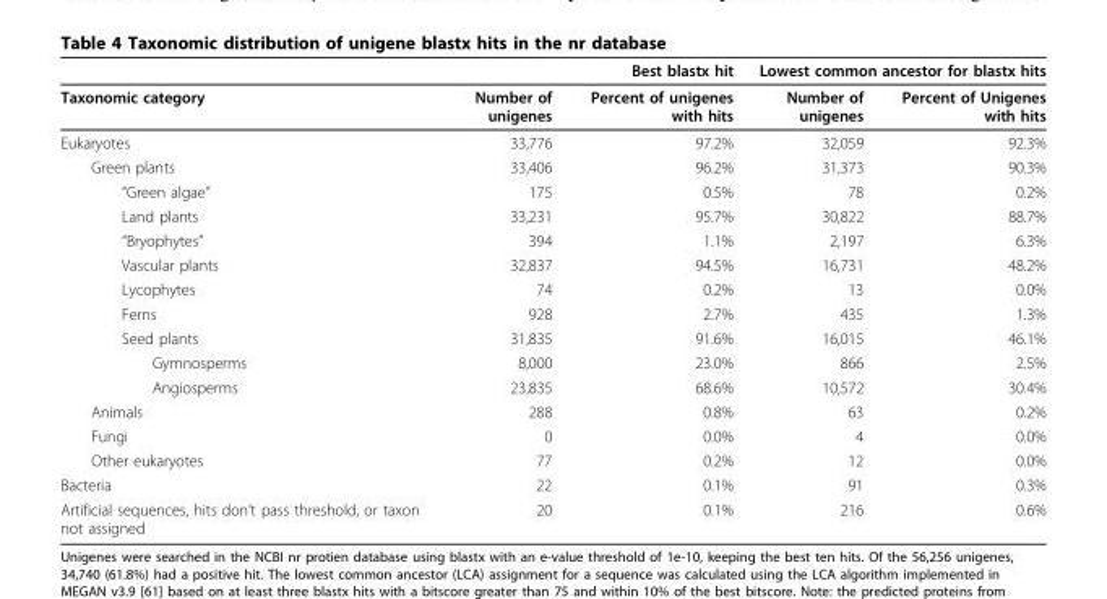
<table><thead><tr><td rowspan="2">Taxonomic category</td><td colspan="2">Best blastx hit</td><td colspan="2">Lowest common ancestor for blastx hits</td></tr><tr><td>Number of unigenes</td><td>Percent of unigenes with hits</td><td>Number of unigenes</td><td>Percent of Unigenes with hits</td></tr></thead><tbody><tr><td>Eukaryotes</td><td>33,776</td><td>97.2%</td><td>32,059</td><td>92.3%</td></tr><tr><td>Green plants</td><td>33,406</td><td>96.2%</td><td>31,373</td><td>90.3%</td></tr><tr><td>“Green algae”</td><td>175</td><td>0.5%</td><td>78</td><td>0.2%</td></tr><tr><td>Land plants</td><td>33,231</td><td>95.7%</td><td>30,822</td><td>88.7%</td></tr><tr><td>“Bryophytes”</td><td>394</td><td>1.1%</td><td>2,197</td><td>6.3%</td></tr><tr><td>Vascular plants</td><td>32,837</td><td>94.5%</td><td>16,731</td><td>48.2%</td></tr><tr><td>Lycophytes</td><td>74</td><td>0.2%</td><td>13</td><td>0.0%</td></tr><tr><td>Ferns</td><td>928</td><td>2.7%</td><td>435</td><td>1.3%</td></tr><tr><td>Seed plants</td><td>31,835</td><td>91.6%</td><td>16,015</td><td>46.1%</td></tr><tr><td>Gymnosperms</td><td>8,000</td><td>23.0%</td><td>866</td><td>2.5%</td></tr><tr><td>Angiosperms</td><td>23,835</td><td>68.6%</td><td>10,572</td><td>30.4%</td></tr><tr><td>Animals</td><td>288</td><td>0.8%</td><td>63</td><td>0.2%</td></tr><tr><td>Fungi</td><td>0</td><td>0.0%</td><td>4</td><td>0.0%</td></tr><tr><td>Other eukaryotes</td><td>77</td><td>0.2%</td><td>12</td><td>0.0%</td></tr><tr><td>Bacteria</td><td>22</td><td>0.1%</td><td>91</td><td>0.3%</td></tr><tr><td>Artificial sequences, hits don’t pass threshold, or taxon not assigned</td><td>20</td><td>0.1%</td><td>216</td><td>0.6%</td></tr></tbody></table>